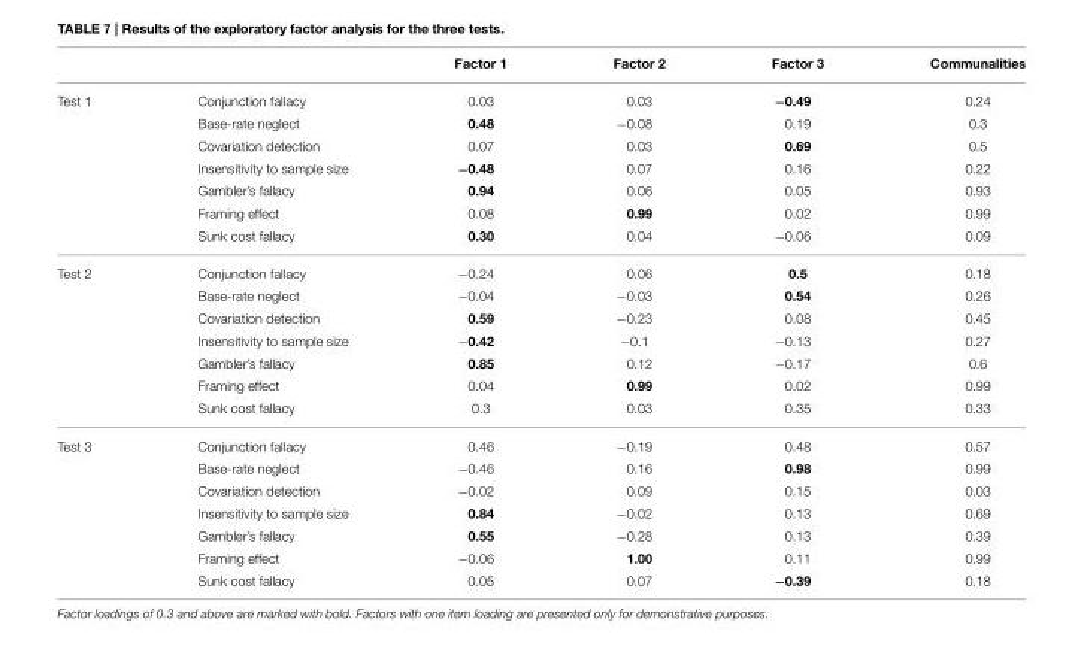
<table><thead><tr><td></td><td></td><td>Factor 1</td><td>Factor 2</td><td>Factor 3</td><td>Communalities</td></tr></thead><tbody><tr><td rowspan="7">Test 1</td><td>Conjunction fallacy</td><td>0.03</td><td>0.03</td><td>−0.49</td><td>0.24</td></tr><tr><td>Base-rate neglect</td><td>0.48</td><td>−0.08</td><td>0.19</td><td>0.3</td></tr><tr><td>Covariation detection</td><td>0.07</td><td>0.03</td><td>0.69</td><td>0.5</td></tr><tr><td>Insensitivity to sample size</td><td>−0.48</td><td>0.07</td><td>0.16</td><td>0.22</td></tr><tr><td>Gambler’s fallacy</td><td>0.94</td><td>0.06</td><td>0.05</td><td>0.93</td></tr><tr><td>Framing effect</td><td>0.08</td><td>0.99</td><td>0.02</td><td>0.99</td></tr><tr><td>Sunk cost fallacy</td><td>0.30</td><td>0.04</td><td>−0.06</td><td>0.09</td></tr><tr><td rowspan="7">Test 2</td><td>Conjunction fallacy</td><td>−0.24</td><td>0.06</td><td>0.5</td><td>0.18</td></tr><tr><td>Base-rate neglect</td><td>−0.04</td><td>−0.03</td><td>0.54</td><td>0.26</td></tr><tr><td>Covariation detection</td><td>0.59</td><td>−0.23</td><td>0.08</td><td>0.45</td></tr><tr><td>Insensitivity to sample size</td><td>−0.42</td><td>−0.1</td><td>−0.13</td><td>0.27</td></tr><tr><td>Gambler’s fallacy</td><td>0.85</td><td>0.12</td><td>−0.17</td><td>0.6</td></tr><tr><td>Framing effect</td><td>0.04</td><td>0.99</td><td>0.02</td><td>0.99</td></tr><tr><td>Sunk cost fallacy</td><td>0.3</td><td>0.03</td><td>0.35</td><td>0.33</td></tr><tr><td rowspan="7">Test 3</td><td>Conjunction fallacy</td><td>0.46</td><td>−0.19</td><td>0.48</td><td>0.57</td></tr><tr><td>Base-rate neglect</td><td>−0.46</td><td>0.16</td><td>0.98</td><td>0.99</td></tr><tr><td>Covariation detection</td><td>−0.02</td><td>0.09</td><td>0.15</td><td>0.03</td></tr><tr><td>Insensitivity to sample size</td><td>0.84</td><td>−0.02</td><td>0.13</td><td>0.69</td></tr><tr><td>Gambler’s fallacy</td><td>0.55</td><td>−0.28</td><td>0.13</td><td>0.39</td></tr><tr><td>Framing effect</td><td>−0.06</td><td>1.00</td><td>0.11</td><td>0.99</td></tr><tr><td>Sunk cost fallacy</td><td>0.05</td><td>0.07</td><td>−0.39</td><td>0.18</td></tr></tbody></table>